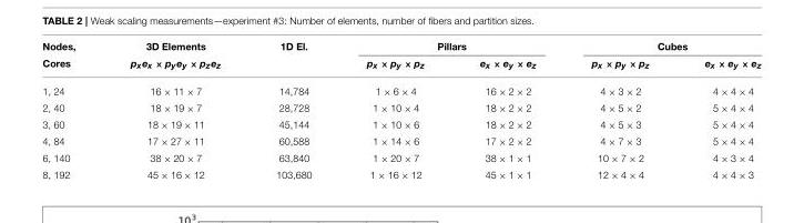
<table><thead><tr><td rowspan="2">Nodes, Cores</td><td rowspan="2">3D Elements pxex × pyey × pzez</td><td rowspan="2">1D El.</td><td colspan="2">Pillars</td><td colspan="2">Cubes</td></tr><tr><td>p<sub>x</sub> × p<sub>y</sub> × p<sub>z</sub></td><td>e<sub>x</sub> × e<sub>y</sub> × e<sub>z</sub></td><td>p<sub>x</sub> × p<sub>y</sub> × p<sub>z</sub></td><td>e<sub>x</sub> × e<sub>y</sub> × e<sub>z</sub></td></tr></thead><tbody><tr><td>1, 24</td><td>16 × 11 × 7</td><td>14,784</td><td>1 × 6 × 4</td><td>16 × 2 × 2</td><td>4 × 3 × 2</td><td>4 × 4 × 4</td></tr><tr><td>2, 40</td><td>18 × 19 × 7</td><td>28,728</td><td>1 × 10 × 4</td><td>18 × 2 × 2</td><td>4 × 5 × 2</td><td>5 × 4 × 4</td></tr><tr><td>3, 60</td><td>18 × 19 × 11</td><td>45,144</td><td>1 × 10 × 6</td><td>18 × 2 × 2</td><td>4 × 5 × 3</td><td>5 × 4 × 4</td></tr><tr><td>4, 84</td><td>17 × 27 × 11</td><td>60,588</td><td>1 × 14 × 6</td><td>17 × 2 × 2</td><td>4 × 7 × 3</td><td>5 × 4 × 4</td></tr><tr><td>6, 140</td><td>38 × 20 × 7</td><td>63,840</td><td>1 × 20 × 7</td><td>38 × 1 × 1</td><td>10 × 7 × 2</td><td>4 × 3 × 4</td></tr><tr><td>8, 192</td><td>45 × 16 × 12</td><td>103,680</td><td>1 × 16 × 12</td><td>45 × 1 × 1</td><td>12 × 4 × 4</td><td>4 × 4 × 3</td></tr></tbody></table>